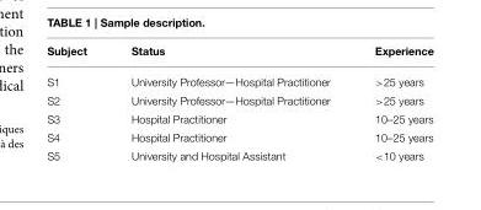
<table><thead><tr><td>Subject</td><td>Status</td><td>Experience</td></tr></thead><tbody><tr><td>S1</td><td>University Professor—Hospital Practitioner</td><td>&gt;25 years</td></tr><tr><td>S2</td><td>University Professor—Hospital Practitioner</td><td>&gt;25 years</td></tr><tr><td>S3</td><td>Hospital Practitioner</td><td>10–25 years</td></tr><tr><td>S4</td><td>Hospital Practitioner</td><td>10–25 years</td></tr><tr><td>S5</td><td>University and Hospital Assistant</td><td>&lt;10 years</td></tr></tbody></table>